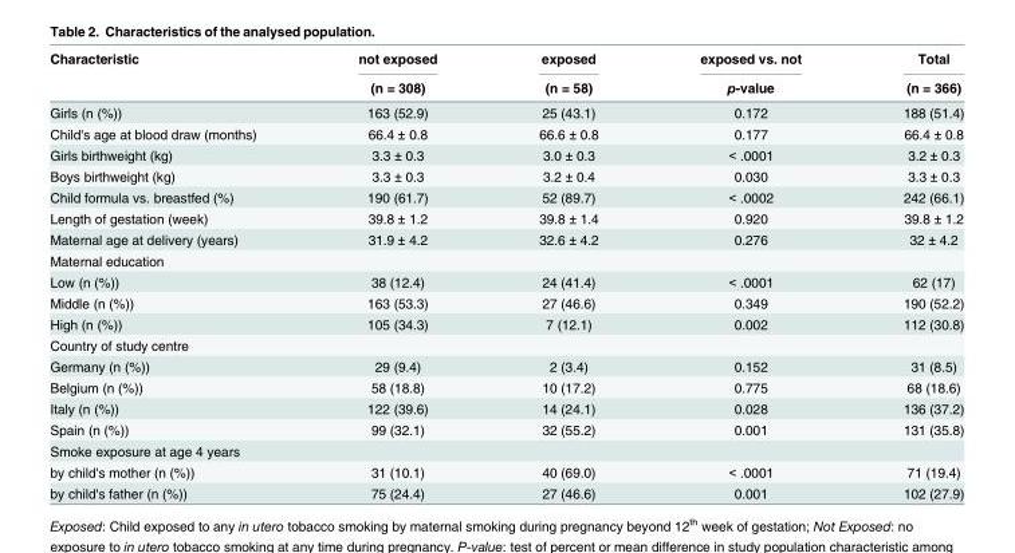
<table><thead><tr><td rowspan="2">Characteristic</td><td rowspan="2">not exposed (n = 308)</td><td rowspan="2">exposed (n = 58)</td><td rowspan="2">exposed vs. not p-value</td><td rowspan="2">Total (n = 366)</td></tr><tr></tr></thead><tbody><tr><td>Girls (n (%))</td><td>163 (52.9)</td><td>25 (43.1)</td><td>0.172</td><td>188 (51.4)</td></tr><tr><td>Child&#x27;s age at blood draw (months)</td><td>66.4 ± 0.8</td><td>66.6 ± 0.8</td><td>0.177</td><td>66.4 ± 0.8</td></tr><tr><td>Girls birthweight (kg)</td><td>3.3 ± 0.3</td><td>3.0 ± 0.3</td><td>&lt; .0001</td><td>3.2 ± 0.3</td></tr><tr><td>Boys birthweight (kg)</td><td>3.3 ± 0.3</td><td>3.2 ± 0.4</td><td>0.030</td><td>3.3 ± 0.3</td></tr><tr><td>Child formula vs. breastfed (%)</td><td>190 (61.7)</td><td>52 (89.7)</td><td>&lt; .0002</td><td>242 (66.1)</td></tr><tr><td>Length of gestation (week)</td><td>39.8 ± 1.2</td><td>39.8 ± 1.4</td><td>0.920</td><td>39.8 ± 1.2</td></tr><tr><td>Maternal age at delivery (years)</td><td>31.9 ± 4.2</td><td>32.6 ± 4.2</td><td>0.276</td><td>32 ± 4.2</td></tr><tr><td colspan="5">Maternal education</td></tr><tr><td>Low (n (%))</td><td>38 (12.4)</td><td>24 (41.4)</td><td>&lt; .0001</td><td>62 (17)</td></tr><tr><td>Middle (n (%))</td><td>163 (53.3)</td><td>27 (46.6)</td><td>0.349</td><td>190 (52.2)</td></tr><tr><td>High (n (%))</td><td>105 (34.3)</td><td>7 (12.1)</td><td>0.002</td><td>112 (30.8)</td></tr><tr><td colspan="5">Country of study centre</td></tr><tr><td>Germany (n (%))</td><td>29 (9.4)</td><td>2 (3.4)</td><td>0.152</td><td>31 (8.5)</td></tr><tr><td>Belgium (n (%))</td><td>58 (18.8)</td><td>10 (17.2)</td><td>0.775</td><td>68 (18.6)</td></tr><tr><td>Italy (n (%))</td><td>122 (39.6)</td><td>14 (24.1)</td><td>0.028</td><td>136 (37.2)</td></tr><tr><td>Spain (n (%))</td><td>99 (32.1)</td><td>32 (55.2)</td><td>0.001</td><td>131 (35.8)</td></tr><tr><td colspan="5">Smoke exposure at age 4 years</td></tr><tr><td>by child&#x27;s mother (n (%))</td><td>31 (10.1)</td><td>40 (69.0)</td><td>&lt; .0001</td><td>71 (19.4)</td></tr><tr><td>by child&#x27;s father (n (%))</td><td>75 (24.4)</td><td>27 (46.6)</td><td>0.001</td><td>102 (27.9)</td></tr></tbody></table>